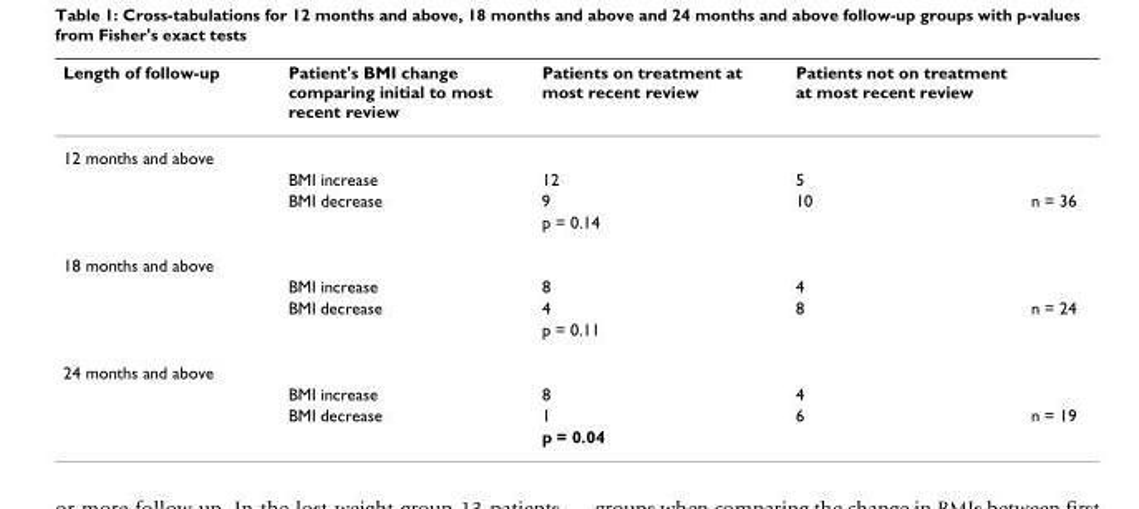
<table><thead><tr><td>Length of follow-up</td><td>Patient&#x27;s BMI change comparing initial to most recent review</td><td>Patients on treatment at most recent review</td><td>Patients not on treatment at most recent review</td><td></td></tr></thead><tbody><tr><td colspan="5">12 months and above</td></tr><tr><td></td><td>BMI increase</td><td>12</td><td>5</td><td></td></tr><tr><td></td><td>BMI decrease</td><td>9</td><td>10</td><td>n = 36</td></tr><tr><td></td><td></td><td>p = 0.14</td><td></td><td></td></tr><tr><td colspan="5">18 months and above</td></tr><tr><td></td><td>BMI increase</td><td>8</td><td>4</td><td></td></tr><tr><td></td><td>BMI decrease</td><td>4</td><td>8</td><td>n = 24</td></tr><tr><td></td><td></td><td>p = 0.11</td><td></td><td></td></tr><tr><td colspan="5">24 months and above</td></tr><tr><td></td><td>BMI increase</td><td>8</td><td>4</td><td></td></tr><tr><td></td><td>BMI decrease</td><td>1</td><td>6</td><td>n = 19</td></tr><tr><td></td><td></td><td>p = 0.04</td><td></td><td></td></tr></tbody></table>